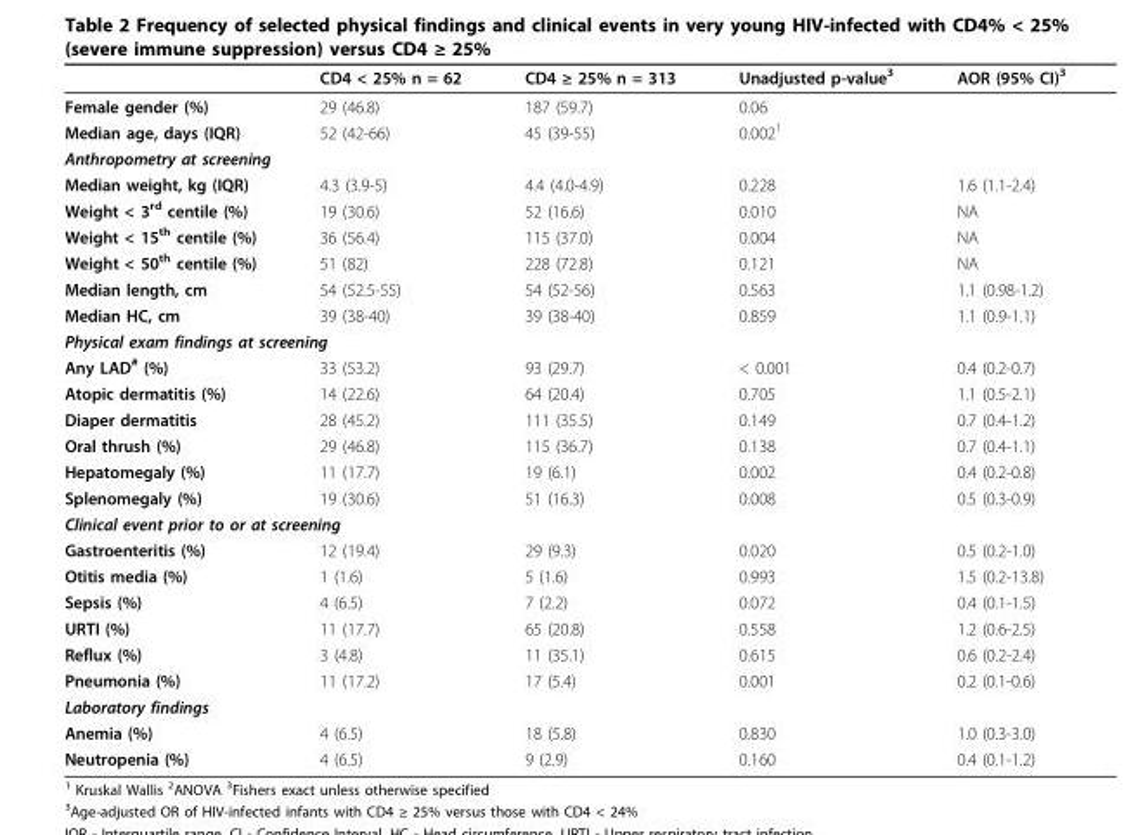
<table><thead><tr><td></td><td>CD4 &lt; 25% n = 62</td><td>CD4 ≥ 25% n = 313</td><td>Unadjusted p-value<sup>3</sup></td><td>AOR (95% CI)<sup>3</sup></td></tr></thead><tbody><tr><td>Female gender (%)</td><td>29 (46.8)</td><td>187 (59.7)</td><td>0.06</td><td></td></tr><tr><td>Median age, days (IQR)</td><td>52 (42-66)</td><td>45 (39-55)</td><td>0.002<sup>1</sup></td><td></td></tr><tr><td colspan="5">Anthropometry at screening</td></tr><tr><td>Median weight, kg (IQR)</td><td>4.3 (3.9-5)</td><td>4.4 (4.0-4.9)</td><td>0.228</td><td>1.6 (1.1-2.4)</td></tr><tr><td>Weight &lt; 3<sup>rd</sup> centile (%)</td><td>19 (30.6)</td><td>52 (16.6)</td><td>0.010</td><td>NA</td></tr><tr><td>Weight &lt; 15<sup>th</sup> centile (%)</td><td>36 (56.4)</td><td>115 (37.0)</td><td>0.004</td><td>NA</td></tr><tr><td>Weight &lt; 50<sup>th</sup> centile (%)</td><td>51 (82)</td><td>228 (72.8)</td><td>0.121</td><td>NA</td></tr><tr><td>Median length, cm</td><td>54 (52.5-55)</td><td>54 (52-56)</td><td>0.563</td><td>1.1 (0.98-1.2)</td></tr><tr><td>Median HC, cm</td><td>39 (38-40)</td><td>39 (38-40)</td><td>0.859</td><td>1.1 (0.9-1.1)</td></tr><tr><td colspan="5">Physical exam findings at screening</td></tr><tr><td>Any LAD<sup>#</sup> (%)</td><td>33 (53.2)</td><td>93 (29.7)</td><td>&lt; 0.001</td><td>0.4 (0.2-0.7)</td></tr><tr><td>Atopic dermatitis (%)</td><td>14 (22.6)</td><td>64 (20.4)</td><td>0.705</td><td>1.1 (0.5-2.1)</td></tr><tr><td>Diaper dermatitis</td><td>28 (45.2)</td><td>111 (35.5)</td><td>0.149</td><td>0.7 (0.4-1.2)</td></tr><tr><td>Oral thrush (%)</td><td>29 (46.8)</td><td>115 (36.7)</td><td>0.138</td><td>0.7 (0.4-1.1)</td></tr><tr><td>Hepatomegaly (%)</td><td>11 (17.7)</td><td>19 (6.1)</td><td>0.002</td><td>0.4 (0.2-0.8)</td></tr><tr><td>Splenomegaly (%)</td><td>19 (30.6)</td><td>51 (16.3)</td><td>0.008</td><td>0.5 (0.3-0.9)</td></tr><tr><td colspan="5">Clinical event prior to or at screening</td></tr><tr><td>Gastroenteritis (%)</td><td>12 (19.4)</td><td>29 (9.3)</td><td>0.020</td><td>0.5 (0.2-1.0)</td></tr><tr><td>Otitis media (%)</td><td>1 (1.6)</td><td>5 (1.6)</td><td>0.993</td><td>1.5 (0.2-13.8)</td></tr><tr><td>Sepsis (%)</td><td>4 (6.5)</td><td>7 (2.2)</td><td>0.072</td><td>0.4 (0.1-1.5)</td></tr><tr><td>URTI (%)</td><td>11 (17.7)</td><td>65 (20.8)</td><td>0.558</td><td>1.2 (0.6-2.5)</td></tr><tr><td>Reflux (%)</td><td>3 (4.8)</td><td>11 (35.1)</td><td>0.615</td><td>0.6 (0.2-2.4)</td></tr><tr><td>Pneumonia (%)</td><td>11 (17.2)</td><td>17 (5.4)</td><td>0.001</td><td>0.2 (0.1-0.6)</td></tr><tr><td colspan="5">Laboratory findings</td></tr><tr><td>Anemia (%)</td><td>4 (6.5)</td><td>18 (5.8)</td><td>0.830</td><td>1.0 (0.3-3.0)</td></tr><tr><td>Neutropenia (%)</td><td>4 (6.5)</td><td>9 (2.9)</td><td>0.160</td><td>0.4 (0.1-1.2)</td></tr></tbody></table>